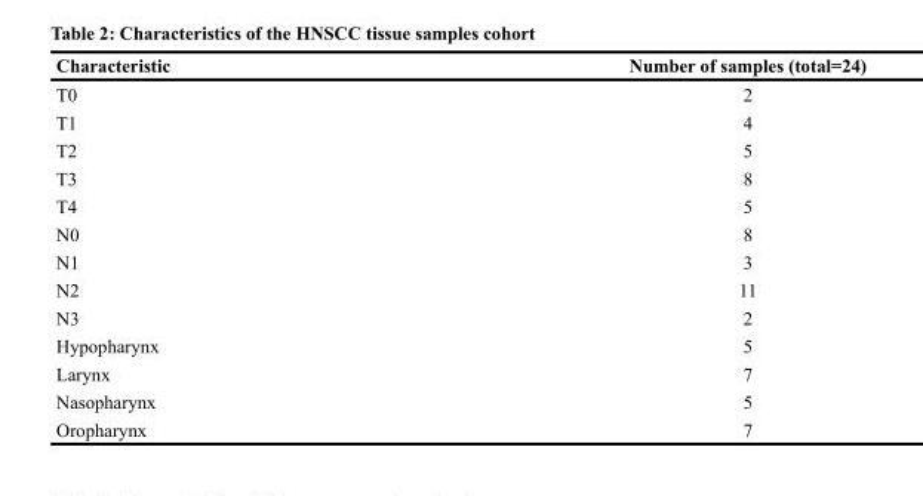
<table><thead><tr><td>Characteristic</td><td>Number of samples (total=24)</td></tr></thead><tbody><tr><td>T0</td><td>2</td></tr><tr><td>T1</td><td>4</td></tr><tr><td>T2</td><td>5</td></tr><tr><td>T3</td><td>8</td></tr><tr><td>T4</td><td>5</td></tr><tr><td>N0</td><td>8</td></tr><tr><td>N1</td><td>3</td></tr><tr><td>N2</td><td>11</td></tr><tr><td>N3</td><td>2</td></tr><tr><td>Hypopharynx</td><td>5</td></tr><tr><td>Larynx</td><td>7</td></tr><tr><td>Nasopharynx</td><td>5</td></tr><tr><td>Oropharynx</td><td>7</td></tr></tbody></table>